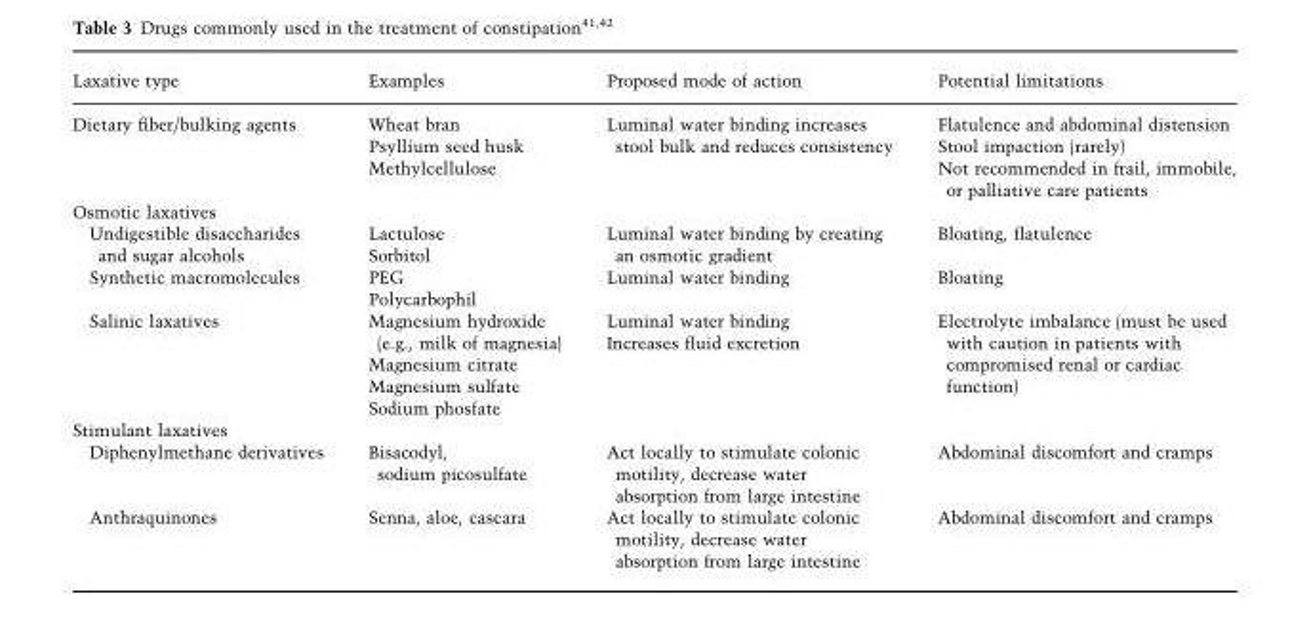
<table><thead><tr><td>Laxative type</td><td>Examples</td><td>Proposed mode of action</td><td>Potential limitations</td></tr></thead><tbody><tr><td>Dietary fiber/bulking agents</td><td>Wheat bran Psyllium seed husk Methylcellulose</td><td>Luminal water binding increases stool bulk and reduces consistency</td><td>Flatulence and abdominal distension Stool impaction (rarely) Not recommended in frail, immobile, or palliative care patients</td></tr><tr><td colspan="4">Osmotic laxatives</td></tr><tr><td>Undigestible disaccharides and sugar alcohols</td><td>Lactulose Sorbitol</td><td>Luminal water binding by creating an osmotic gradient</td><td>Bloating, flatulence</td></tr><tr><td>Synthetic macromolecules</td><td>PEG Polycarbophil</td><td>Luminal water binding</td><td>Bloating</td></tr><tr><td>Salinic laxatives</td><td>Magnesium hydroxide (e.g., milk of magnesia) Magnesium citrate Magnesium sulfate Sodium phosfate</td><td>Luminal water binding Increases fluid excretion</td><td>Electrolyte imbalance (must be used with caution in patients with compromised renal or cardiac function)</td></tr><tr><td colspan="4">Stimulant laxatives</td></tr><tr><td>Diphenylmethane derivatives</td><td>Bisacodyl, sodium picosulfate</td><td>Act locally to stimulate colonic motility, decrease water absorption from large intestine</td><td>Abdominal discomfort and cramps</td></tr><tr><td>Anthraquinones</td><td>Senna, aloe, cascara</td><td>Act locally to stimulate colonic motility, decrease water absorption from large intestine</td><td>Abdominal discomfort and cramps</td></tr></tbody></table>